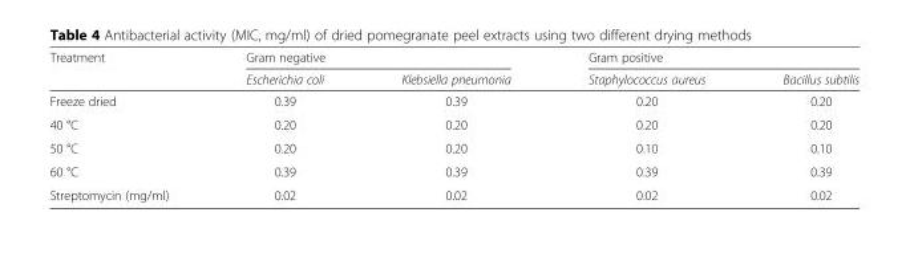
<table><thead><tr><td rowspan="2">Treatment</td><td colspan="2">Gram negative</td><td colspan="2">Gram positive</td></tr><tr><td>Escherichia coli</td><td>Klebsiella pneumonia</td><td>Staphylococcus aureus</td><td>Bacillus subtilis</td></tr></thead><tbody><tr><td>Freeze dried</td><td>0.39</td><td>0.39</td><td>0.20</td><td>0.20</td></tr><tr><td>40 °C</td><td>0.20</td><td>0.20</td><td>0.20</td><td>0.20</td></tr><tr><td>50 °C</td><td>0.20</td><td>0.20</td><td>0.10</td><td>0.10</td></tr><tr><td>60 °C</td><td>0.39</td><td>0.39</td><td>0.39</td><td>0.39</td></tr><tr><td>Streptomycin (mg/ml)</td><td>0.02</td><td>0.02</td><td>0.02</td><td>0.02</td></tr></tbody></table>